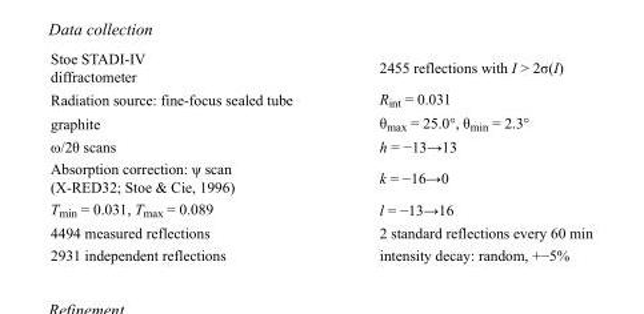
<table><tbody><tr><td>Stoe STADI-IV diffractometer</td><td>2455 reflections with I &gt; 2σ(I)</td></tr><tr><td>Radiation source: fine-focus sealed tube</td><td>R<sub>int</sub> = 0.031</td></tr><tr><td>graphite</td><td>θ<sub>max</sub> = 25.0°, θ<sub>min</sub> = 2.3°</td></tr><tr><td>ω/2θ scans</td><td>h = −13→13</td></tr><tr><td>Absorption correction: ψ scan (X-RED32; Stoe &amp; Cie, 1996)</td><td>k = −16→0</td></tr><tr><td>T<sub>min</sub> = 0.031, T<sub>max</sub> = 0.089</td><td>l = −13→16</td></tr><tr><td>4494 measured reflections</td><td>2 standard reflections every 60 min</td></tr><tr><td>2931 independent reflections</td><td>intensity decay: random, +−5%</td></tr></tbody></table>